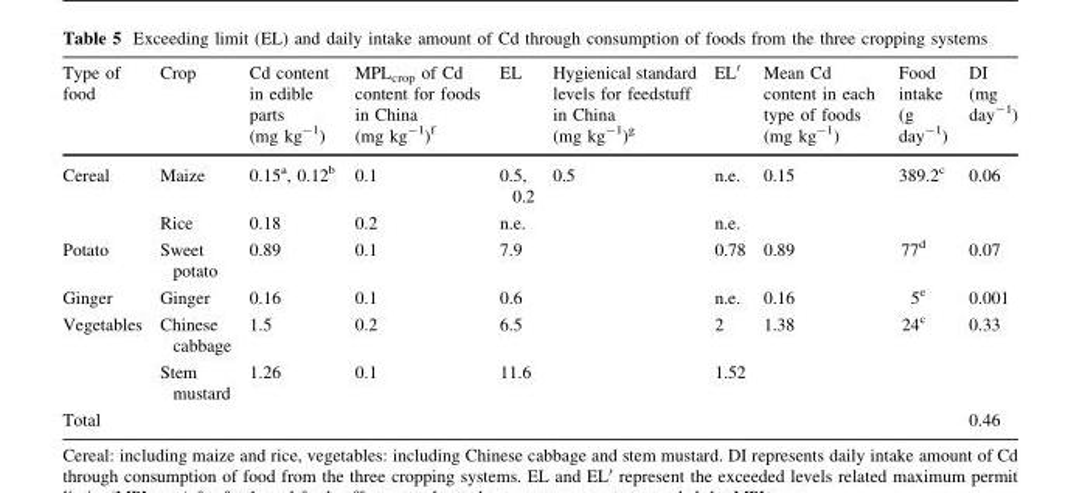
<table><thead><tr><td>Type of food</td><td>Crop</td><td>Cd content in edible parts (mg kg<sup>-1</sup>)</td><td>MPL<sub>crop</sub> of Cd content for foods in China (mg kg<sup>-1</sup>)<sup>f</sup></td><td>EL</td><td>Hygienical standard levels for feedstuff in China (mg kg<sup>-1</sup>)<sup>g</sup></td><td>EL′</td><td>Mean Cd content in each type of foods (mg kg<sup>-1</sup>)</td><td>Food intake (g day<sup>-1</sup>)</td><td>DI (mg day<sup>-1</sup>)</td></tr></thead><tbody><tr><td rowspan="2">Cereal</td><td>Maize</td><td>0.15<sup>a</sup>, 0.12<sup>b</sup></td><td>0.1</td><td>0.5, 0.2</td><td rowspan="6">0.5</td><td>n.e.</td><td rowspan="2">0.15</td><td rowspan="2">389.2<sup>c</sup></td><td rowspan="2">0.06</td></tr><tr><td>Rice</td><td>0.18</td><td>0.2</td><td>n.e.</td><td>n.e.</td></tr><tr><td>Potato</td><td>Sweet potato</td><td>0.89</td><td>0.1</td><td>7.9</td><td>0.78</td><td>0.89</td><td>77<sup>d</sup></td><td>0.07</td></tr><tr><td>Ginger</td><td>Ginger</td><td>0.16</td><td>0.1</td><td>0.6</td><td>n.e.</td><td>0.16</td><td>5<sup>e</sup></td><td>0.001</td></tr><tr><td rowspan="2">Vegetables</td><td>Chinese cabbage</td><td>1.5</td><td>0.2</td><td>6.5</td><td>2</td><td rowspan="2">1.38</td><td rowspan="2">24<sup>c</sup></td><td rowspan="2">0.33</td></tr><tr><td>Stem mustard</td><td>1.26</td><td>0.1</td><td>11.6</td><td>1.52</td></tr><tr><td>Total</td><td></td><td></td><td></td><td></td><td></td><td></td><td></td><td></td><td>0.46</td></tr></tbody></table>